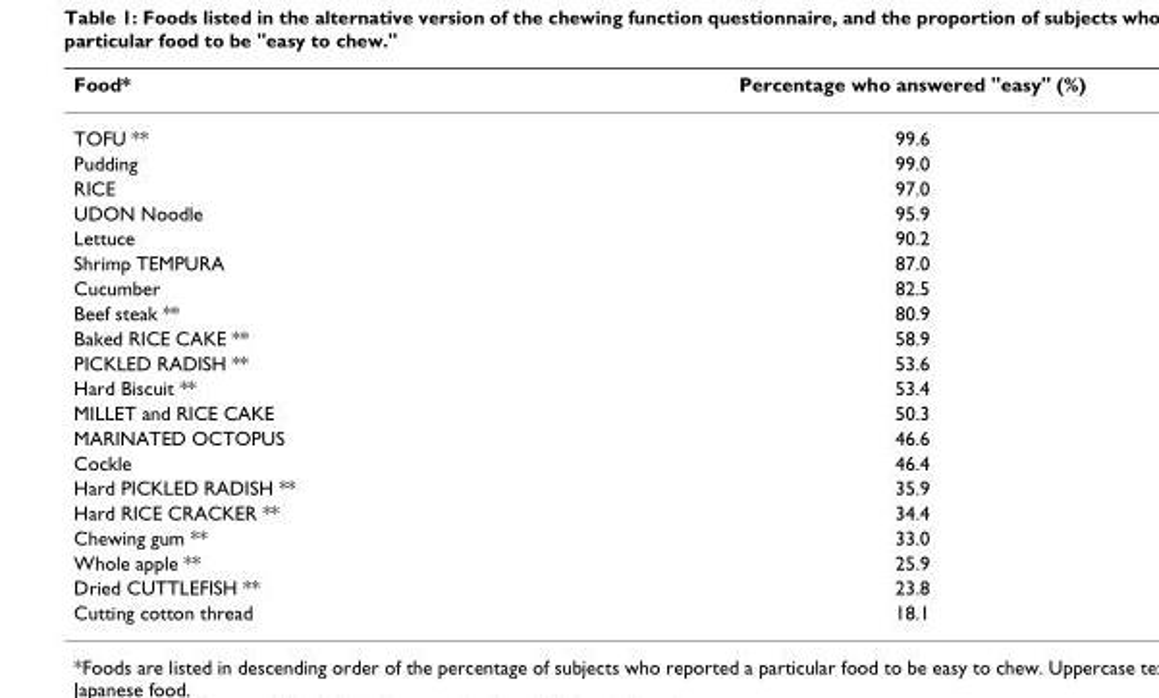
<table><thead><tr><td>Food*</td><td>Percentage who answered &quot;easy&quot; (%)</td></tr></thead><tbody><tr><td>TOFU **</td><td>99.6</td></tr><tr><td>Pudding</td><td>99.0</td></tr><tr><td>RICE</td><td>97.0</td></tr><tr><td>UDON Noodle</td><td>95.9</td></tr><tr><td>Lettuce</td><td>90.2</td></tr><tr><td>Shrimp TEMPURA</td><td>87.0</td></tr><tr><td>Cucumber</td><td>82.5</td></tr><tr><td>Beef steak **</td><td>80.9</td></tr><tr><td>Baked RICE CAKE **</td><td>58.9</td></tr><tr><td>PICKLED RADISH **</td><td>53.6</td></tr><tr><td>Hard Biscuit **</td><td>53.4</td></tr><tr><td>MILLET and RICE CAKE</td><td>50.3</td></tr><tr><td>MARINATED OCTOPUS</td><td>46.6</td></tr><tr><td>Cockle</td><td>46.4</td></tr><tr><td>Hard PICKLED RADISH **</td><td>35.9</td></tr><tr><td>Hard RICE CRACKER **</td><td>34.4</td></tr><tr><td>Chewing gum **</td><td>33.0</td></tr><tr><td>Whole apple **</td><td>25.9</td></tr><tr><td>Dried CUTTLEFISH **</td><td>23.8</td></tr><tr><td>Cutting cotton thread</td><td>18.1</td></tr></tbody></table>